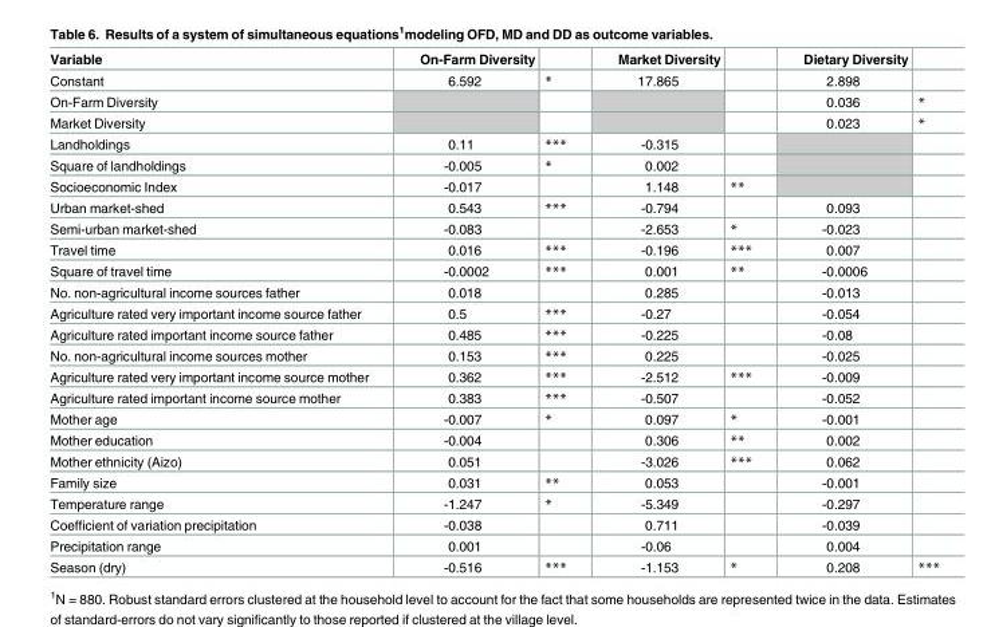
<table><thead><tr><td>Variable</td><td>On-Farm Diversity</td><td></td><td>Market Diversity</td><td></td><td>Dietary Diversity</td><td></td></tr></thead><tbody><tr><td>Constant</td><td>6.592</td><td>*</td><td>17.865</td><td></td><td>2.898</td><td></td></tr><tr><td>On-Farm Diversity</td><td></td><td></td><td></td><td></td><td>0.036</td><td>*</td></tr><tr><td>Market Diversity</td><td></td><td></td><td></td><td></td><td>0.023</td><td>*</td></tr><tr><td>Landholdings</td><td>0.11</td><td>***</td><td>-0.315</td><td></td><td></td><td></td></tr><tr><td>Square of landholdings</td><td>-0.005</td><td>*</td><td>0.002</td><td></td><td></td><td></td></tr><tr><td>Socioeconomic Index</td><td>-0.017</td><td></td><td>1.148</td><td>**</td><td></td><td></td></tr><tr><td>Urban market-shed</td><td>0.543</td><td>***</td><td>-0.794</td><td></td><td>0.093</td><td></td></tr><tr><td>Semi-urban market-shed</td><td>-0.083</td><td></td><td>-2.653</td><td>*</td><td>-0.023</td><td></td></tr><tr><td>Travel time</td><td>0.016</td><td>***</td><td>-0.196</td><td>***</td><td>0.007</td><td></td></tr><tr><td>Square of travel time</td><td>-0.0002</td><td>***</td><td>0.001</td><td>**</td><td>-0.0006</td><td></td></tr><tr><td>No. non-agricultural income sources father</td><td>0.018</td><td></td><td>0.285</td><td></td><td>-0.013</td><td></td></tr><tr><td>Agriculture rated very important income source father</td><td>0.5</td><td>***</td><td>-0.27</td><td></td><td>-0.054</td><td></td></tr><tr><td>Agriculture rated important income source father</td><td>0.485</td><td>***</td><td>-0.225</td><td></td><td>-0.08</td><td></td></tr><tr><td>No. non-agricultural income sources mother</td><td>0.153</td><td>***</td><td>0.225</td><td></td><td>-0.025</td><td></td></tr><tr><td>Agriculture rated very important income source mother</td><td>0.362</td><td>***</td><td>-2.512</td><td>***</td><td>-0.009</td><td></td></tr><tr><td>Agriculture rated important income source mother</td><td>0.383</td><td>***</td><td>-0.507</td><td></td><td>-0.052</td><td></td></tr><tr><td>Mother age</td><td>-0.007</td><td>*</td><td>0.097</td><td>*</td><td>-0.001</td><td></td></tr><tr><td>Mother education</td><td>-0.004</td><td></td><td>0.306</td><td>**</td><td>0.002</td><td></td></tr><tr><td>Mother ethnicity (Aizo)</td><td>0.051</td><td></td><td>-3.026</td><td>***</td><td>0.062</td><td></td></tr><tr><td>Family size</td><td>0.031</td><td>**</td><td>0.053</td><td></td><td>-0.001</td><td></td></tr><tr><td>Temperature range</td><td>-1.247</td><td>*</td><td>-5.349</td><td></td><td>-0.297</td><td></td></tr><tr><td>Coefficient of variation precipitation</td><td>-0.038</td><td></td><td>0.711</td><td></td><td>-0.039</td><td></td></tr><tr><td>Precipitation range</td><td>0.001</td><td></td><td>-0.06</td><td></td><td>0.004</td><td></td></tr><tr><td>Season (dry)</td><td>-0.516</td><td>***</td><td>-1.153</td><td>*</td><td>0.208</td><td>***</td></tr></tbody></table>